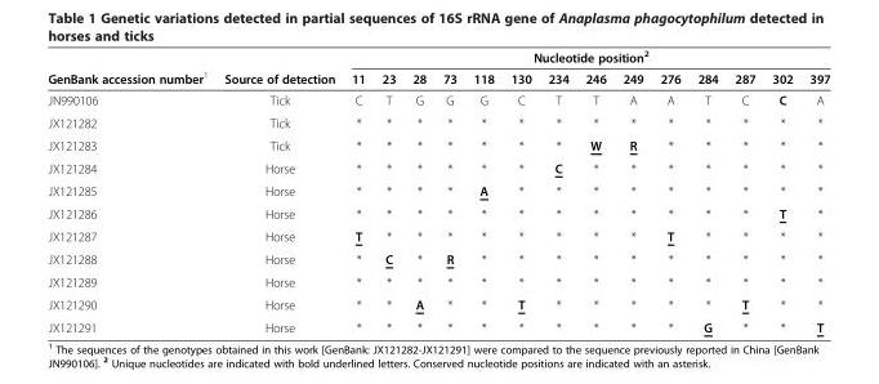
<table><thead><tr><td rowspan="2">GenBank accession number<sup>1</sup></td><td rowspan="2">Source of detection</td><td colspan="14">Nucleotide position<sup>2</sup></td></tr><tr><td>11</td><td>23</td><td>28</td><td>73</td><td>118</td><td>130</td><td>234</td><td>246</td><td>249</td><td>276</td><td>284</td><td>287</td><td>302</td><td>397</td></tr></thead><tbody><tr><td>JN990106</td><td>Tick</td><td>C</td><td>T</td><td>G</td><td>G</td><td>G</td><td>C</td><td>T</td><td>T</td><td>A</td><td>A</td><td>T</td><td>C</td><td>C</td><td>A</td></tr><tr><td>JX121282</td><td>Tick</td><td>*</td><td>*</td><td>*</td><td>*</td><td>*</td><td>*</td><td>*</td><td>*</td><td>*</td><td>*</td><td>*</td><td>*</td><td>*</td><td>*</td></tr><tr><td>JX121283</td><td>Tick</td><td>*</td><td>*</td><td>*</td><td>*</td><td>*</td><td>*</td><td>*</td><td>W</td><td>R</td><td>*</td><td>*</td><td>*</td><td>*</td><td>*</td></tr><tr><td>JX121284</td><td>Horse</td><td>*</td><td>*</td><td>*</td><td>*</td><td>*</td><td>*</td><td>C</td><td>*</td><td>*</td><td>*</td><td>*</td><td>*</td><td>*</td><td>*</td></tr><tr><td>JX121285</td><td>Horse</td><td>*</td><td>*</td><td>*</td><td>*</td><td>A</td><td>*</td><td>*</td><td>*</td><td>*</td><td>*</td><td>*</td><td>*</td><td>*</td><td>*</td></tr><tr><td>JX121286</td><td>Horse</td><td>*</td><td>*</td><td>*</td><td>*</td><td>*</td><td>*</td><td>*</td><td>*</td><td>*</td><td>*</td><td>*</td><td>*</td><td>T</td><td>*</td></tr><tr><td>JX121287</td><td>Horse</td><td>T</td><td>*</td><td>*</td><td>*</td><td>*</td><td>*</td><td>*</td><td>*</td><td>*</td><td>T</td><td>*</td><td>*</td><td>*</td><td>*</td></tr><tr><td>JX121288</td><td>Horse</td><td>*</td><td>C</td><td>*</td><td>R</td><td>*</td><td>*</td><td>*</td><td>*</td><td>*</td><td>*</td><td>*</td><td>*</td><td>*</td><td>*</td></tr><tr><td>JX121289</td><td>Horse</td><td>*</td><td>*</td><td>*</td><td>*</td><td>*</td><td>*</td><td>*</td><td>*</td><td>*</td><td>*</td><td>*</td><td>*</td><td>*</td><td>*</td></tr><tr><td>JX121290</td><td>Horse</td><td>*</td><td>*</td><td>A</td><td>*</td><td>*</td><td>T</td><td>*</td><td>*</td><td>*</td><td>*</td><td>*</td><td>T</td><td>*</td><td>*</td></tr><tr><td>JX121291</td><td>Horse</td><td>*</td><td>*</td><td>*</td><td>*</td><td>*</td><td>*</td><td>*</td><td>*</td><td>*</td><td>*</td><td>G</td><td>*</td><td>*</td><td>T</td></tr></tbody></table>